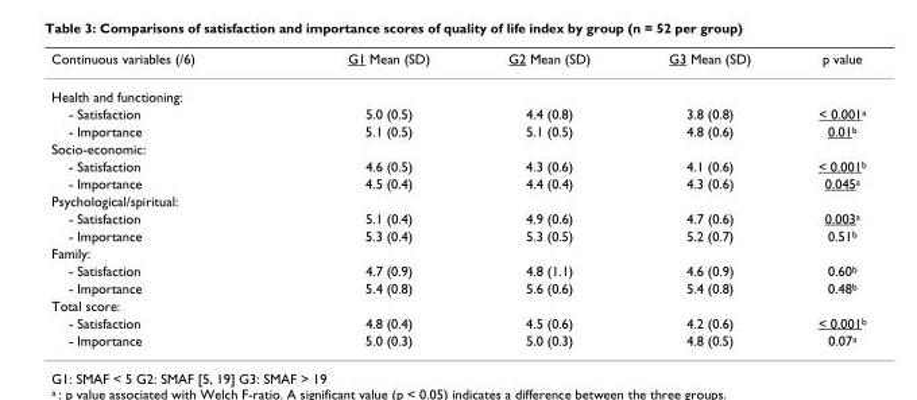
<table><thead><tr><td>Continuous variables (/6)</td><td>G1 Mean (SD)</td><td>G2 Mean (SD)</td><td>G3 Mean (SD)</td><td>p value</td></tr></thead><tbody><tr><td colspan="5">Health and functioning:</td></tr><tr><td>- Satisfaction</td><td>5.0 (0.5)</td><td>4.4 (0.8)</td><td>3.8 (0.8)</td><td>&lt; 0.001<sup>a</sup></td></tr><tr><td>- Importance</td><td>5.1 (0.5)</td><td>5.1 (0.5)</td><td>4.8 (0.6)</td><td>0.01<sup>b</sup></td></tr><tr><td colspan="5">Socio-economic:</td></tr><tr><td>- Satisfaction</td><td>4.6 (0.5)</td><td>4.3 (0.6)</td><td>4.1 (0.6)</td><td>&lt; 0.001<sup>b</sup></td></tr><tr><td>- Importance</td><td>4.5 (0.4)</td><td>4.4 (0.4)</td><td>4.3 (0.6)</td><td>0.045<sup>a</sup></td></tr><tr><td colspan="5">Psychological/spiritual:</td></tr><tr><td>- Satisfaction</td><td>5.1 (0.4)</td><td>4.9 (0.6)</td><td>4.7 (0.6)</td><td>0.003<sup>a</sup></td></tr><tr><td>- Importance</td><td>5.3 (0.4)</td><td>5.3 (0.5)</td><td>5.2 (0.7)</td><td>0.51<sup>b</sup></td></tr><tr><td colspan="5">Family:</td></tr><tr><td>- Satisfaction</td><td>4.7 (0.9)</td><td>4.8 (1.1)</td><td>4.6 (0.9)</td><td>0.60<sup>b</sup></td></tr><tr><td>- Importance</td><td>5.4 (0.8)</td><td>5.6 (0.6)</td><td>5.4 (0.8)</td><td>0.48<sup>b</sup></td></tr><tr><td colspan="5">Total score:</td></tr><tr><td>- Satisfaction</td><td>4.8 (0.4)</td><td>4.5 (0.6)</td><td>4.2 (0.6)</td><td>&lt; 0.001<sup>b</sup></td></tr><tr><td>- Importance</td><td>5.0 (0.3)</td><td>5.0 (0.3)</td><td>4.8 (0.5)</td><td>0.07<sup>a</sup></td></tr></tbody></table>